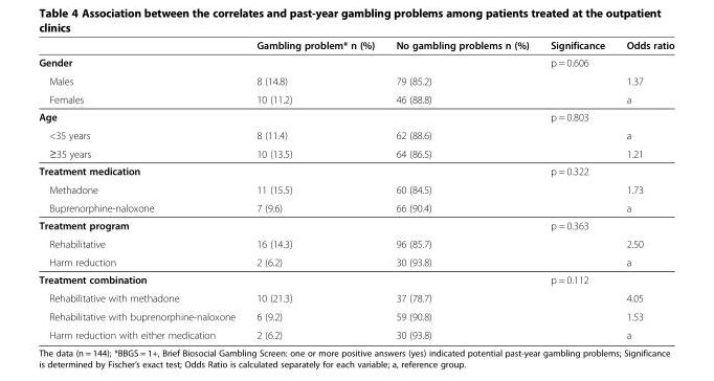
<table><thead><tr><td></td><td>Gambling problem* n (%)</td><td>No gambling problems n (%)</td><td>Significance</td><td>Odds ratio</td></tr></thead><tbody><tr><td>Gender</td><td></td><td></td><td>p = 0.606</td><td></td></tr><tr><td>Males</td><td>8 (14.8)</td><td>79 (85.2)</td><td></td><td>1.37</td></tr><tr><td>Females</td><td>10 (11.2)</td><td>46 (88.8)</td><td></td><td>a</td></tr><tr><td>Age</td><td></td><td></td><td>p = 0.803</td><td></td></tr><tr><td>&lt;35 years</td><td>8 (11.4)</td><td>62 (88.6)</td><td></td><td>a</td></tr><tr><td>≥35 years</td><td>10 (13.5)</td><td>64 (86.5)</td><td></td><td>1.21</td></tr><tr><td>Treatment medication</td><td></td><td></td><td>p = 0.322</td><td></td></tr><tr><td>Methadone</td><td>11 (15.5)</td><td>60 (84.5)</td><td></td><td>1.73</td></tr><tr><td>Buprenorphine-naloxone</td><td>7 (9.6)</td><td>66 (90.4)</td><td></td><td>a</td></tr><tr><td>Treatment program</td><td></td><td></td><td>p = 0.363</td><td></td></tr><tr><td>Rehabilitative</td><td>16 (14.3)</td><td>96 (85.7)</td><td></td><td>2.50</td></tr><tr><td>Harm reduction</td><td>2 (6.2)</td><td>30 (93.8)</td><td></td><td>a</td></tr><tr><td>Treatment combination</td><td></td><td></td><td>p = 0.112</td><td></td></tr><tr><td>Rehabilitative with methadone</td><td>10 (21.3)</td><td>37 (78.7)</td><td></td><td>4.05</td></tr><tr><td>Rehabilitative with buprenorphine-naloxone</td><td>6 (9.2)</td><td>59 (90.8)</td><td></td><td>1.53</td></tr><tr><td>Harm reduction with either medication</td><td>2 (6.2)</td><td>30 (93.8)</td><td></td><td>a</td></tr></tbody></table>